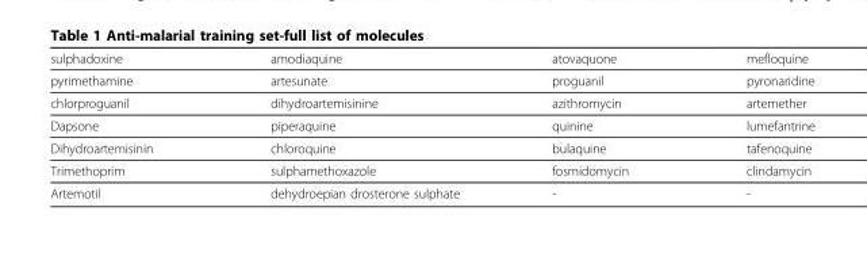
<table><thead><tr><td>sulphadoxine</td><td>amodiaquine</td><td>atovaquone</td><td>mefloquine</td></tr></thead><tbody><tr><td>pyrimethamine</td><td>artesunate</td><td>proguanil</td><td>pyronaridine</td></tr><tr><td>chlorproguanil</td><td>dihydroartemisinine</td><td>azithromycin</td><td>artemether</td></tr><tr><td>Dapsone</td><td>piperaquine</td><td>quinine</td><td>lumefantrine</td></tr><tr><td>Dihydroartemisinin</td><td>chloroquine</td><td>bulaquine</td><td>tafenoquine</td></tr><tr><td>Trimethoprim</td><td>sulphamethoxazole</td><td>fosmidomycin</td><td>clindamycin</td></tr><tr><td>Artemotil</td><td>dehydroepian drosterone sulphate</td><td>-</td><td>-</td></tr></tbody></table>